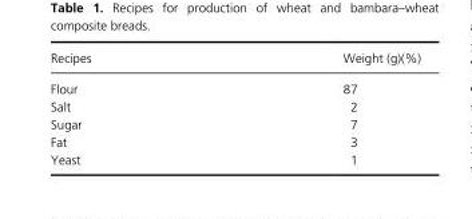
<table><thead><tr><td>Recipes</td><td>Weight (g)(%)</td></tr></thead><tbody><tr><td>Flour</td><td>87</td></tr><tr><td>Salt</td><td>2</td></tr><tr><td>Sugar</td><td>7</td></tr><tr><td>Fat</td><td>3</td></tr><tr><td>Yeast</td><td>1</td></tr></tbody></table>